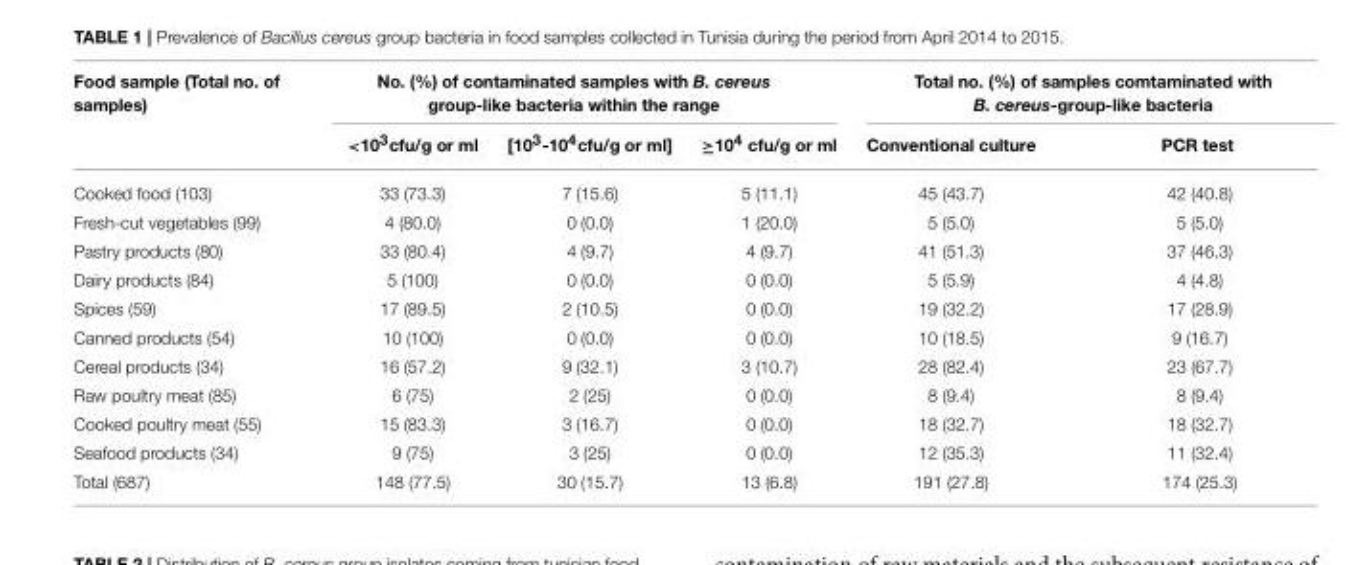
<table><thead><tr><td rowspan="2">Food sample (Total no. of samples)</td><td colspan="3">No. (%) of contaminated samples with B. cereus group-like bacteria within the range</td><td colspan="2">Total no. (%) of samples comtaminated with B. cereus-group-like bacteria</td></tr><tr><td>&lt;10<sup>3</sup>cfu/g or ml</td><td>[10<sup>3</sup>-10<sup>4</sup>cfu/g or ml]</td><td>≥10<sup>4</sup> cfu/g or ml</td><td>Conventional culture</td><td>PCR test</td></tr></thead><tbody><tr><td>Cooked food (103)</td><td>33 (73.3)</td><td>7 (15.6)</td><td>5 (11.1)</td><td>45 (43.7)</td><td>42 (40.8)</td></tr><tr><td>Fresh-cut vegetables (99)</td><td>4 (80.0)</td><td>0 (0.0)</td><td>1 (20.0)</td><td>5 (5.0)</td><td>5 (5.0)</td></tr><tr><td>Pastry products (80)</td><td>33 (80.4)</td><td>4 (9.7)</td><td>4 (9.7)</td><td>41 (51.3)</td><td>37 (46.3)</td></tr><tr><td>Dairy products (84)</td><td>5 (100)</td><td>0 (0.0)</td><td>0 (0.0)</td><td>5 (5.9)</td><td>4 (4.8)</td></tr><tr><td>Spices (59)</td><td>17 (89.5)</td><td>2 (10.5)</td><td>0 (0.0)</td><td>19 (32.2)</td><td>17 (28.9)</td></tr><tr><td>Canned products (54)</td><td>10 (100)</td><td>0 (0.0)</td><td>0 (0.0)</td><td>10 (18.5)</td><td>9 (16.7)</td></tr><tr><td>Cereal products (34)</td><td>16 (57.2)</td><td>9 (32.1)</td><td>3 (10.7)</td><td>28 (82.4)</td><td>23 (67.7)</td></tr><tr><td>Raw poultry meat (85)</td><td>6 (75)</td><td>2 (25)</td><td>0 (0.0)</td><td>8 (9.4)</td><td>8 (9.4)</td></tr><tr><td>Cooked poultry meat (55)</td><td>15 (83.3)</td><td>3 (16.7)</td><td>0 (0.0)</td><td>18 (32.7)</td><td>18 (32.7)</td></tr><tr><td>Seafood products (34)</td><td>9 (75)</td><td>3 (25)</td><td>0 (0.0)</td><td>12 (35.3)</td><td>11 (32.4)</td></tr><tr><td>Total (687)</td><td>148 (77.5)</td><td>30 (15.7)</td><td>13 (6.8)</td><td>191 (27.8)</td><td>174 (25.3)</td></tr></tbody></table>